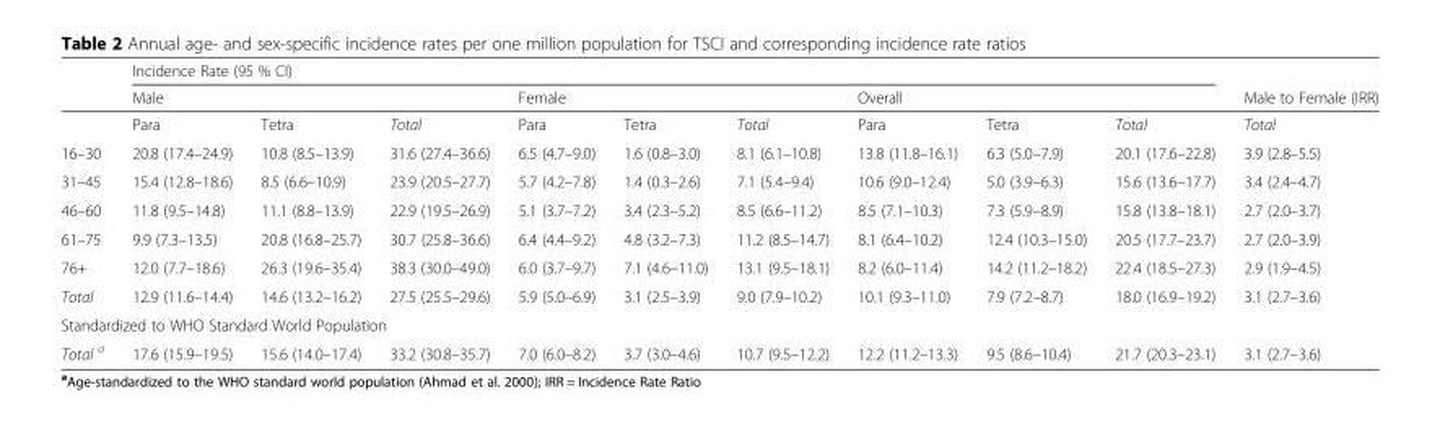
<table><thead><tr><td rowspan="3"></td><td colspan="9">Incidence Rate (95 % CI)</td><td rowspan="3">Male to Female (IRR) Total</td></tr><tr><td colspan="3">Male</td><td colspan="3">Female</td><td colspan="3">Overall</td></tr><tr><td>Para</td><td>Tetra</td><td>Total</td><td>Para</td><td>Tetra</td><td>Total</td><td>Para</td><td>Tetra</td><td>Total</td></tr></thead><tbody><tr><td>16–30</td><td>20.8 (17.4–24.9)</td><td>10.8 (8.5–13.9)</td><td>31.6 (27.4–36.6)</td><td>6.5 (4.7–9.0)</td><td>1.6 (0.8–3.0)</td><td>8.1 (6.1–10.8)</td><td>13.8 (11.8–16.1)</td><td>6.3 (5.0–7.9)</td><td>20.1 (17.6–22.8)</td><td>3.9 (2.8–5.5)</td></tr><tr><td>31–45</td><td>15.4 (12.8–18.6)</td><td>8.5 (6.6–10.9)</td><td>23.9 (20.5–27.7)</td><td>5.7 (4.2–7.8)</td><td>1.4 (0.3–2.6)</td><td>7.1 (5.4–9.4)</td><td>10.6 (9.0–12.4)</td><td>5.0 (3.9–6.3)</td><td>15.6 (13.6–17.7)</td><td>3.4 (2.4–4.7)</td></tr><tr><td>46–60</td><td>11.8 (9.5–14.8)</td><td>11.1 (8.8–13.9)</td><td>22.9 (19.5–26.9)</td><td>5.1 (3.7–7.2)</td><td>3.4 (2.3–5.2)</td><td>8.5 (6.6–11.2)</td><td>8.5 (7.1–10.3)</td><td>7.3 (5.9–8.9)</td><td>15.8 (13.8–18.1)</td><td>2.7 (2.0–3.7)</td></tr><tr><td>61–75</td><td>9.9 (7.3–13.5)</td><td>20.8 (16.8–25.7)</td><td>30.7 (25.8–36.6)</td><td>6.4 (4.4–9.2)</td><td>4.8 (3.2–7.3)</td><td>11.2 (8.5–14.7)</td><td>8.1 (6.4–10.2)</td><td>12.4 (10.3–15.0)</td><td>20.5 (17.7–23.7)</td><td>2.7 (2.0–3.9)</td></tr><tr><td>76+</td><td>12.0 (7.7–18.6)</td><td>26.3 (19.6–35.4)</td><td>38.3 (30.0–49.0)</td><td>6.0 (3.7–9.7)</td><td>7.1 (4.6–11.0)</td><td>13.1 (9.5–18.1)</td><td>8.2 (6.0–11.4)</td><td>14.2 (11.2–18.2)</td><td>22.4 (18.5–27.3)</td><td>2.9 (1.9–4.5)</td></tr><tr><td>Total</td><td>12.9 (11.6–14.4)</td><td>14.6 (13.2–16.2)</td><td>27.5 (25.5–29.6)</td><td>5.9 (5.0–6.9)</td><td>3.1 (2.5–3.9)</td><td>9.0 (7.9–10.2)</td><td>10.1 (9.3–11.0)</td><td>7.9 (7.2–8.7)</td><td>18.0 (16.9–19.2)</td><td>3.1 (2.7–3.6)</td></tr><tr><td colspan="11">Standardized to WHO Standard World Population</td></tr><tr><td>Total <sup>a</sup></td><td>17.6 (15.9–19.5)</td><td>15.6 (14.0–17.4)</td><td>33.2 (30.8–35.7)</td><td>7.0 (6.0–8.2)</td><td>3.7 (3.0–4.6)</td><td>10.7 (9.5–12.2)</td><td>12.2 (11.2–13.3)</td><td>9.5 (8.6–10.4)</td><td>21.7 (20.3–23.1)</td><td>3.1 (2.7–3.6)</td></tr></tbody></table>